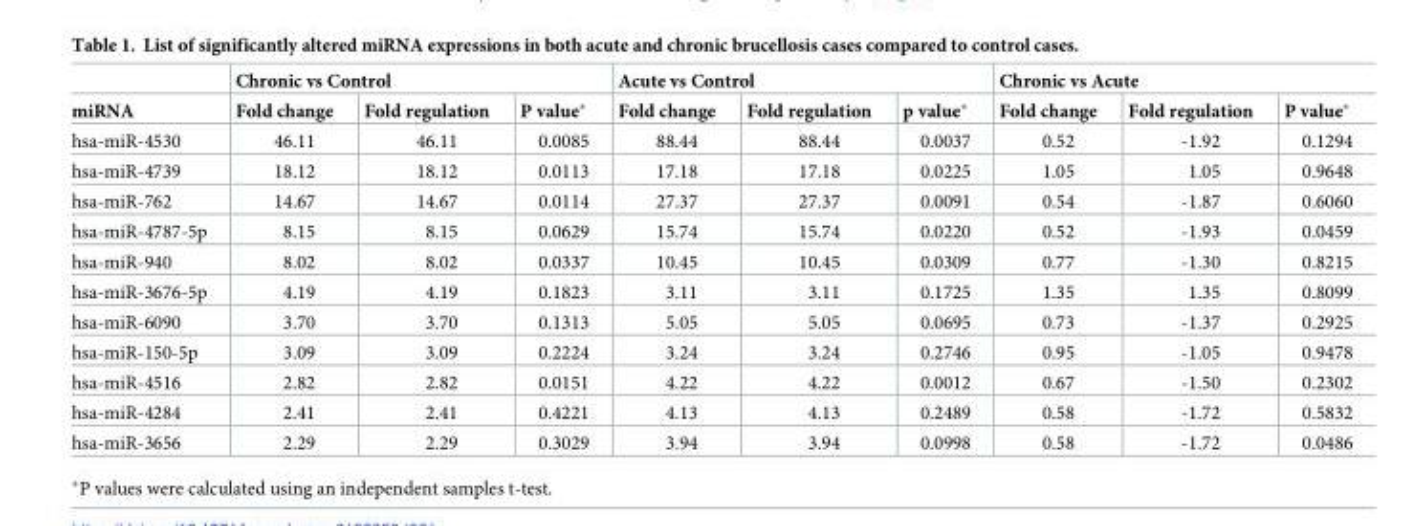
<table><thead><tr><td rowspan="2">miRNA</td><td colspan="3">Chronic vs Control</td><td colspan="3">Acute vs Control</td><td colspan="3">Chronic vs Acute</td></tr><tr><td>Fold change</td><td>Fold regulation</td><td>P value*</td><td>Fold change</td><td>Fold regulation</td><td>p value*</td><td>Fold change</td><td>Fold regulation</td><td>P value*</td></tr></thead><tbody><tr><td>hsa-miR-4530</td><td>46.11</td><td>46.11</td><td>0.0085</td><td>88.44</td><td>88.44</td><td>0.0037</td><td>0.52</td><td>-1.92</td><td>0.1294</td></tr><tr><td>hsa-miR-4739</td><td>18.12</td><td>18.12</td><td>0.0113</td><td>17.18</td><td>17.18</td><td>0.0225</td><td>1.05</td><td>1.05</td><td>0.9648</td></tr><tr><td>hsa-miR-762</td><td>14.67</td><td>14.67</td><td>0.0114</td><td>27.37</td><td>27.37</td><td>0.0091</td><td>0.54</td><td>-1.87</td><td>0.6060</td></tr><tr><td>hsa-miR-4787-5p</td><td>8.15</td><td>8.15</td><td>0.0629</td><td>15.74</td><td>15.74</td><td>0.0220</td><td>0.52</td><td>-1.93</td><td>0.0459</td></tr><tr><td>hsa-miR-940</td><td>8.02</td><td>8.02</td><td>0.0337</td><td>10.45</td><td>10.45</td><td>0.0309</td><td>0.77</td><td>-1.30</td><td>0.8215</td></tr><tr><td>hsa-miR-3676-5p</td><td>4.19</td><td>4.19</td><td>0.1823</td><td>3.11</td><td>3.11</td><td>0.1725</td><td>1.35</td><td>1.35</td><td>0.8099</td></tr><tr><td>hsa-miR-6090</td><td>3.70</td><td>3.70</td><td>0.1313</td><td>5.05</td><td>5.05</td><td>0.0695</td><td>0.73</td><td>-1.37</td><td>0.2925</td></tr><tr><td>hsa-miR-150-5p</td><td>3.09</td><td>3.09</td><td>0.2224</td><td>3.24</td><td>3.24</td><td>0.2746</td><td>0.95</td><td>-1.05</td><td>0.9478</td></tr><tr><td>hsa-miR-4516</td><td>2.82</td><td>2.82</td><td>0.0151</td><td>4.22</td><td>4.22</td><td>0.0012</td><td>0.67</td><td>-1.50</td><td>0.2302</td></tr><tr><td>hsa-miR-4284</td><td>2.41</td><td>2.41</td><td>0.4221</td><td>4.13</td><td>4.13</td><td>0.2489</td><td>0.58</td><td>-1.72</td><td>0.5832</td></tr><tr><td>hsa-miR-3656</td><td>2.29</td><td>2.29</td><td>0.3029</td><td>3.94</td><td>3.94</td><td>0.0998</td><td>0.58</td><td>-1.72</td><td>0.0486</td></tr></tbody></table>